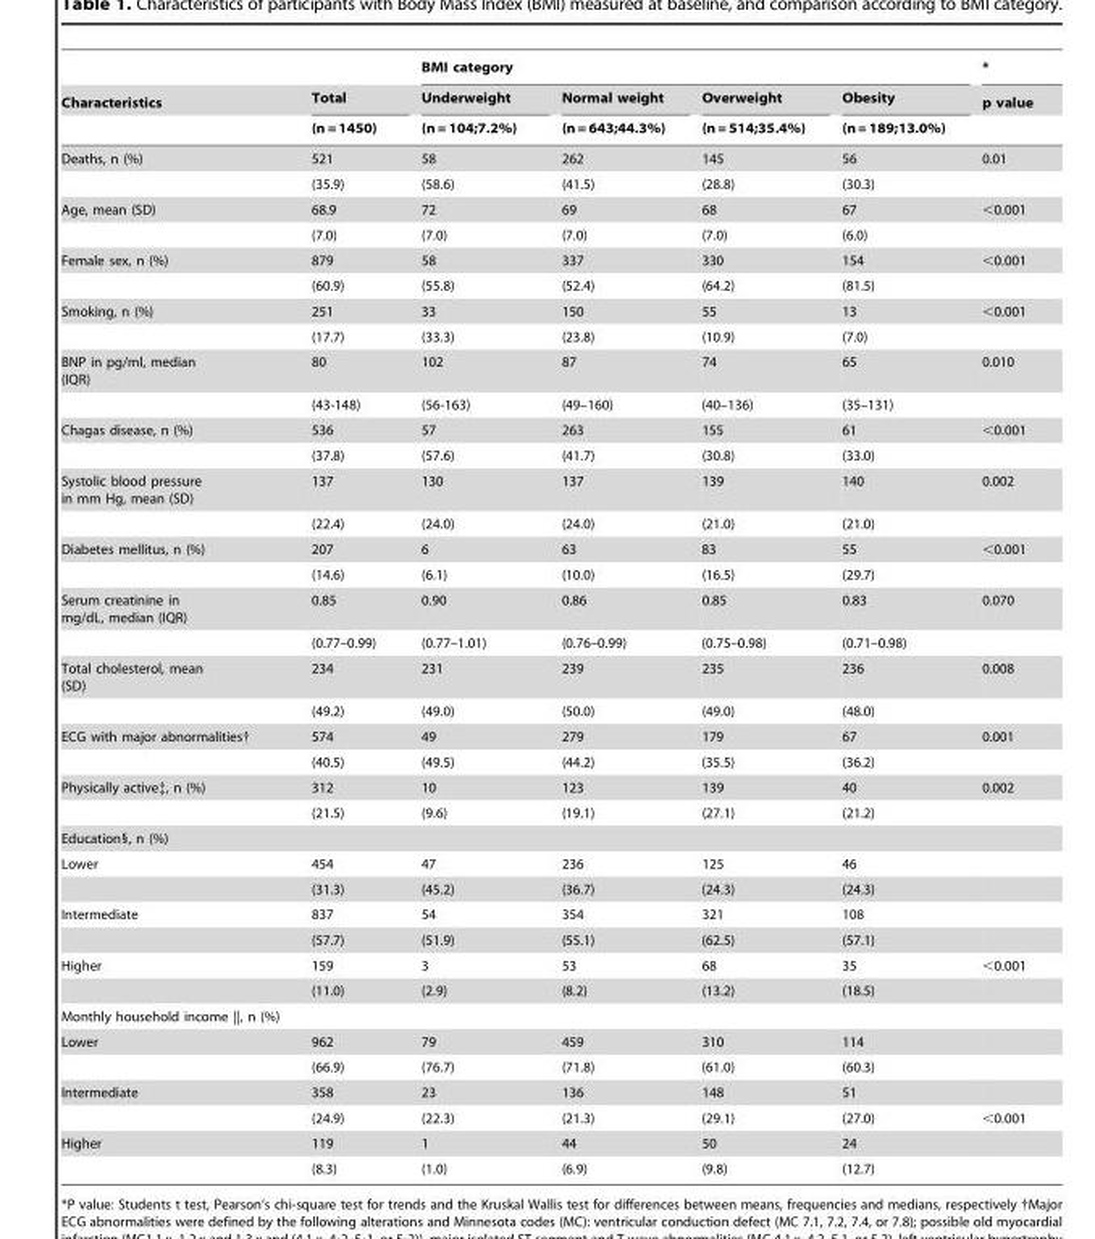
<table><thead><tr><td rowspan="3">Characteristics</td><td rowspan="3">Total (n = 1450)</td><td colspan="4">BMI category</td><td rowspan="3">* p value</td></tr><tr><td rowspan="2">Underweight (n = 104;7.2%)</td><td rowspan="2">Normal weight (n = 643;44.3%)</td><td rowspan="2">Overweight (n = 514;35.4%)</td><td rowspan="2">Obesity (n = 189;13.0%)</td></tr><tr></tr></thead><tbody><tr><td rowspan="2">Deaths, n (%)</td><td>521</td><td>58</td><td>262</td><td>145</td><td>56</td><td>0.01</td></tr><tr><td>(35.9)</td><td>(58.6)</td><td>(41.5)</td><td>(28.8)</td><td>(30.3)</td><td></td></tr><tr><td rowspan="2">Age, mean (SD)</td><td>68.9</td><td>72</td><td>69</td><td>68</td><td>67</td><td>&lt;0.001</td></tr><tr><td>(7.0)</td><td>(7.0)</td><td>(7.0)</td><td>(7.0)</td><td>(6.0)</td><td></td></tr><tr><td rowspan="2">Female sex, n (%)</td><td>879</td><td>58</td><td>337</td><td>330</td><td>154</td><td>&lt;0.001</td></tr><tr><td>(60.9)</td><td>(55.8)</td><td>(52.4)</td><td>(64.2)</td><td>(81.5)</td><td></td></tr><tr><td rowspan="2">Smoking, n (%)</td><td>251</td><td>33</td><td>150</td><td>55</td><td>13</td><td>&lt;0.001</td></tr><tr><td>(17.7)</td><td>(33.3)</td><td>(23.8)</td><td>(10.9)</td><td>(7.0)</td><td></td></tr><tr><td rowspan="2">BNP in pg/ml, median (IQR)</td><td>80</td><td>102</td><td>87</td><td>74</td><td>65</td><td>0.010</td></tr><tr><td>(43-148)</td><td>(56-163)</td><td>(49–160)</td><td>(40–136)</td><td>(35–131)</td><td></td></tr><tr><td rowspan="2">Chagas disease, n (%)</td><td>536</td><td>57</td><td>263</td><td>155</td><td>61</td><td>&lt;0.001</td></tr><tr><td>(37.8)</td><td>(57.6)</td><td>(41.7)</td><td>(30.8)</td><td>(33.0)</td><td></td></tr><tr><td rowspan="2">Systolic blood pressure in mm Hg, mean (SD)</td><td>137</td><td>130</td><td>137</td><td>139</td><td>140</td><td>0.002</td></tr><tr><td>(22.4)</td><td>(24.0)</td><td>(24.0)</td><td>(21.0)</td><td>(21.0)</td><td></td></tr><tr><td rowspan="2">Diabetes mellitus, n (%)</td><td>207</td><td>6</td><td>63</td><td>83</td><td>55</td><td>&lt;0.001</td></tr><tr><td>(14.6)</td><td>(6.1)</td><td>(10.0)</td><td>(16.5)</td><td>(29.7)</td><td></td></tr><tr><td rowspan="2">Serum creatinine in mg/dL, median (IQR)</td><td>0.85</td><td>0.90</td><td>0.86</td><td>0.85</td><td>0.83</td><td>0.070</td></tr><tr><td>(0.77–0.99)</td><td>(0.77–1.01)</td><td>(0.76–0.99)</td><td>(0.75–0.98)</td><td>(0.71–0.98)</td><td></td></tr><tr><td rowspan="2">Total cholesterol, mean (SD)</td><td>234</td><td>231</td><td>239</td><td>235</td><td>236</td><td>0.008</td></tr><tr><td>(49.2)</td><td>(49.0)</td><td>(50.0)</td><td>(49.0)</td><td>(48.0)</td><td></td></tr><tr><td rowspan="2">ECG with major abnormalities†</td><td>574</td><td>49</td><td>279</td><td>179</td><td>67</td><td>0.001</td></tr><tr><td>(40.5)</td><td>(49.5)</td><td>(44.2)</td><td>(35.5)</td><td>(36.2)</td><td></td></tr><tr><td rowspan="2">Physically active‡, n (%)</td><td>312</td><td>10</td><td>123</td><td>139</td><td>40</td><td>0.002</td></tr><tr><td>(21.5)</td><td>(9.6)</td><td>(19.1)</td><td>(27.1)</td><td>(21.2)</td><td></td></tr><tr><td colspan="7">Education§, n (%)</td></tr><tr><td rowspan="2">Lower</td><td>454</td><td>47</td><td>236</td><td>125</td><td>46</td><td></td></tr><tr><td>(31.3)</td><td>(45.2)</td><td>(36.7)</td><td>(24.3)</td><td>(24.3)</td><td></td></tr><tr><td rowspan="2">Intermediate</td><td>837</td><td>54</td><td>354</td><td>321</td><td>108</td><td></td></tr><tr><td>(57.7)</td><td>(51.9)</td><td>(55.1)</td><td>(62.5)</td><td>(57.1)</td><td></td></tr><tr><td rowspan="2">Higher</td><td>159</td><td>3</td><td>53</td><td>68</td><td>35</td><td>&lt;0.001</td></tr><tr><td>(11.0)</td><td>(2.9)</td><td>(8.2)</td><td>(13.2)</td><td>(18.5)</td><td></td></tr><tr><td colspan="7">Monthly household income ||, n (%)</td></tr><tr><td rowspan="2">Lower</td><td>962</td><td>79</td><td>459</td><td>310</td><td>114</td><td></td></tr><tr><td>(66.9)</td><td>(76.7)</td><td>(71.8)</td><td>(61.0)</td><td>(60.3)</td><td></td></tr><tr><td rowspan="2">Intermediate</td><td>358</td><td>23</td><td>136</td><td>148</td><td>51</td><td></td></tr><tr><td>(24.9)</td><td>(22.3)</td><td>(21.3)</td><td>(29.1)</td><td>(27.0)</td><td>&lt;0.001</td></tr><tr><td rowspan="2">Higher</td><td>119</td><td>1</td><td>44</td><td>50</td><td>24</td><td></td></tr><tr><td>(8.3)</td><td>(1.0)</td><td>(6.9)</td><td>(9.8)</td><td>(12.7)</td><td></td></tr></tbody></table>